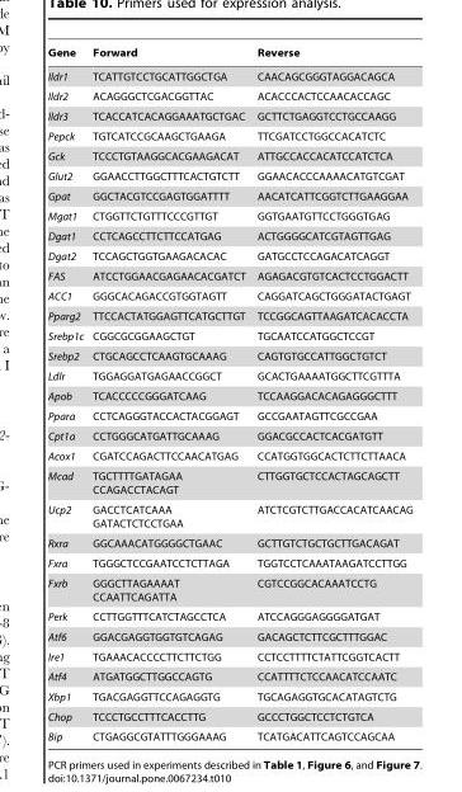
<table><thead><tr><td>Gene</td><td>Forward</td><td>Reverse</td></tr></thead><tbody><tr><td>Ildr1</td><td>TCATTGTCCTGCATTGGCTGA</td><td>CAACAGCGGGTAGGACAGCA</td></tr><tr><td>Ildr2</td><td>ACAGGGCTCGACGGTTAC</td><td>ACACCCACTCCAACACCAGC</td></tr><tr><td>Ildr3</td><td>TCACCATCACAGGAAATGCTGAC</td><td>GCTTCTGAGGTCCTGCCAAGG</td></tr><tr><td>Pepck</td><td>TGTCATCCGCAAGCTGAAGA</td><td>TTCGATCCTGGCCACATCTC</td></tr><tr><td>Gck</td><td>TCCCTGTAAGGCACGAAGACAT</td><td>ATTGCCACCACATCCATCTCA</td></tr><tr><td>Glut2</td><td>GGAACCTTGGCTTTCACTGTCTT</td><td>GGAACACCCAAAACATGTCGAT</td></tr><tr><td>Gpat</td><td>GGCTACGTCCGAGTGGATTTT</td><td>AACATCATTCGGTCTTGAAGGAA</td></tr><tr><td>Mgat1</td><td>CTGGTTCTGTTTCCCGTTGT</td><td>GGTGAATGTTCCTGGGTGAG</td></tr><tr><td>Dgat1</td><td>CCTCAGCCTTCTTCCATGAG</td><td>ACTGGGGCATCGTAGTTGAG</td></tr><tr><td>Dgat2</td><td>TCCAGCTGGTGAAGACACAC</td><td>GATGCCTCCAGACATCAGGT</td></tr><tr><td>FAS</td><td>ATCCTGGAACGAGAACACGATCT</td><td>AGAGACGTGTCACTCCTGGACTT</td></tr><tr><td>ACC1</td><td>GGGCACAGACCGTGGTAGTT</td><td>CAGGATCAGCTGGGATACTGAGT</td></tr><tr><td>Pparg2</td><td>TTCCACTATGGAGTTCATGCTTGT</td><td>TCCGGCAGTTAAGATCACACCTA</td></tr><tr><td>Srebp1c</td><td>CGGCGCGGAAGCTGT</td><td>TGCAATCCATGGCTCCGT</td></tr><tr><td>Srebp2</td><td>CTGCAGCCTCAAGTGCAAAG</td><td>CAGTGTGCCATTGGCTGTCT</td></tr><tr><td>Ldlr</td><td>TGGAGGATGAGAACCGGCT</td><td>GCACTGAAAATGGCTTCGTTTA</td></tr><tr><td>Apob</td><td>TCACCCCCGGGATCAAG</td><td>TCCAAGGACACAGAGGGCTTT</td></tr><tr><td>Ppara</td><td>CCTCAGGGTACCACTACGGAGT</td><td>GCCGAATAGTTCGCCGAA</td></tr><tr><td>Cpt1a</td><td>CCTGGGCATGATTGCAAAG</td><td>GGACGCCACTCACGATGTT</td></tr><tr><td>Acox1</td><td>CGATCCAGACTTCCAACATGAG</td><td>CCATGGTGGCACTCTTCTTAACA</td></tr><tr><td>Mcad</td><td>TGCTTTTGATAGAA CCAGACCTACAGT</td><td>CTTGGTGCTCCACTAGCAGCTT</td></tr><tr><td>Ucp2</td><td>GACCTCATCAAA GATACTCTCCTGAA</td><td>ATCTCGTCTTGACCACATCAACAG</td></tr><tr><td>Rxra</td><td>GGCAAACATGGGGCTGAAC</td><td>GCTTGTCTGCTGCTTGACAGAT</td></tr><tr><td>Fxra</td><td>TGGGCTCCGAATCCTCTTAGA</td><td>TGGTCCTCAAATAAGATCCTTGG</td></tr><tr><td>Fxrb</td><td>GGGCTTAGAAAAT CCAATTCAGATTA</td><td>CGTCCGGCACAAATCCTG</td></tr><tr><td>Perk</td><td>CCTTGGTTTCATCTAGCCTCA</td><td>ATCCAGGGAGGGGATGAT</td></tr><tr><td>Atf6</td><td>GGACGAGGTGGTGTCAGAG</td><td>GACAGCTCTTCGCTTTGGAC</td></tr><tr><td>Ire1</td><td>TGAAACACCCCTTCTTCTGG</td><td>CCTCCTTTTCTATTCGGTCACTT</td></tr><tr><td>Atf4</td><td>ATGATGGCTTGGCCAGTG</td><td>CCATTTTCTCCAACATCCAATC</td></tr><tr><td>Xbp1</td><td>TGACGAGGTTCCAGAGGTG</td><td>TGCAGAGGTGCACATAGTCTG</td></tr><tr><td>Chop</td><td>TCCCTGCCTTTCACCTTG</td><td>GCCCTGGCTCCTCTGTCA</td></tr><tr><td>Bip</td><td>CTGAGGCGTATTTGGGAAAG</td><td>TCATGACATTCAGTCCAGCAA</td></tr></tbody></table>